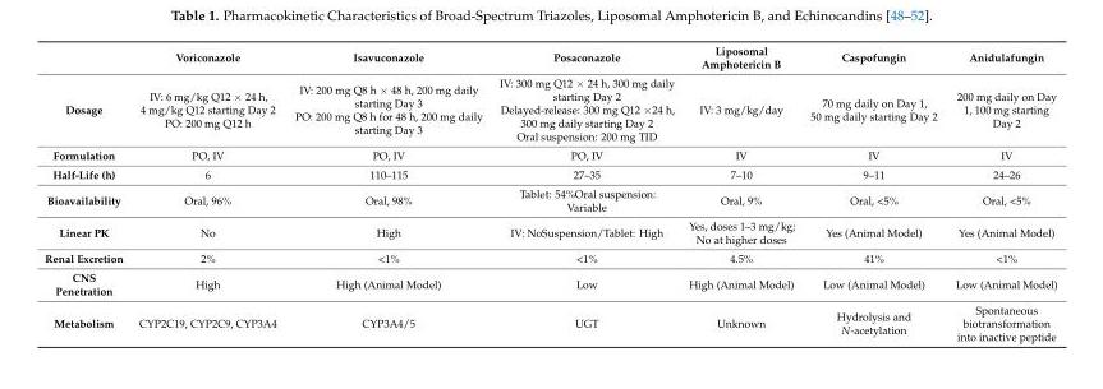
<table><thead><tr><td></td><td>Voriconazole</td><td>Isavuconazole</td><td>Posaconazole</td><td>Liposomal Amphotericin B</td><td>Caspofungin</td><td>Anidulafungin</td></tr></thead><tbody><tr><td>Dosage</td><td>IV: 6 mg/kg Q12 × 24 h, 4 mg/kg Q12 starting Day 2 PO: 200 mg Q12 h</td><td>IV: 200 mg Q8 h × 48 h, 200 mg daily starting Day 3 PO: 200 mg Q8 h for 48 h, 200 mg daily starting Day 3</td><td>IV: 300 mg Q12 × 24 h, 300 mg daily starting Day 2 Delayed-release: 300 mg Q12 ×24 h, 300 mg daily starting Day 2 Oral suspension: 200 mg TID</td><td>IV: 3 mg/kg/day</td><td>70 mg daily on Day 1, 50 mg daily starting Day 2</td><td>200 mg daily on Day 1, 100 mg starting Day 2</td></tr><tr><td>Formulation</td><td>PO, IV</td><td>PO, IV</td><td>PO, IV</td><td>IV</td><td>IV</td><td>IV</td></tr><tr><td>Half-Life (h)</td><td>6</td><td>110–115</td><td>27–35</td><td>7–10</td><td>9–11</td><td>24–26</td></tr><tr><td>Bioavailability</td><td>Oral, 96%</td><td>Oral, 98%</td><td>Tablet: 54%Oral suspension: Variable</td><td>Oral, 9%</td><td>Oral, &lt;5%</td><td>Oral, &lt;5%</td></tr><tr><td>Linear PK</td><td>No</td><td>High</td><td>IV: NoSuspension/Tablet: High</td><td>Yes, doses 1–3 mg/kg; No at higher doses</td><td>Yes (Animal Model)</td><td>Yes (Animal Model)</td></tr><tr><td>Renal Excretion</td><td>2%</td><td>&lt;1%</td><td>&lt;1%</td><td>4.5%</td><td>41%</td><td>&lt;1%</td></tr><tr><td>CNS Penetration</td><td>High</td><td>High (Animal Model)</td><td>Low</td><td>High (Animal Model)</td><td>Low (Animal Model)</td><td>Low (Animal Model)</td></tr><tr><td>Metabolism</td><td>CYP2C19, CYP2C9, CYP3A4</td><td>CYP3A4/5</td><td>UGT</td><td>Unknown</td><td>Hydrolysis and N-acetylation</td><td>Spontaneous biotransformation into inactive peptide</td></tr></tbody></table>